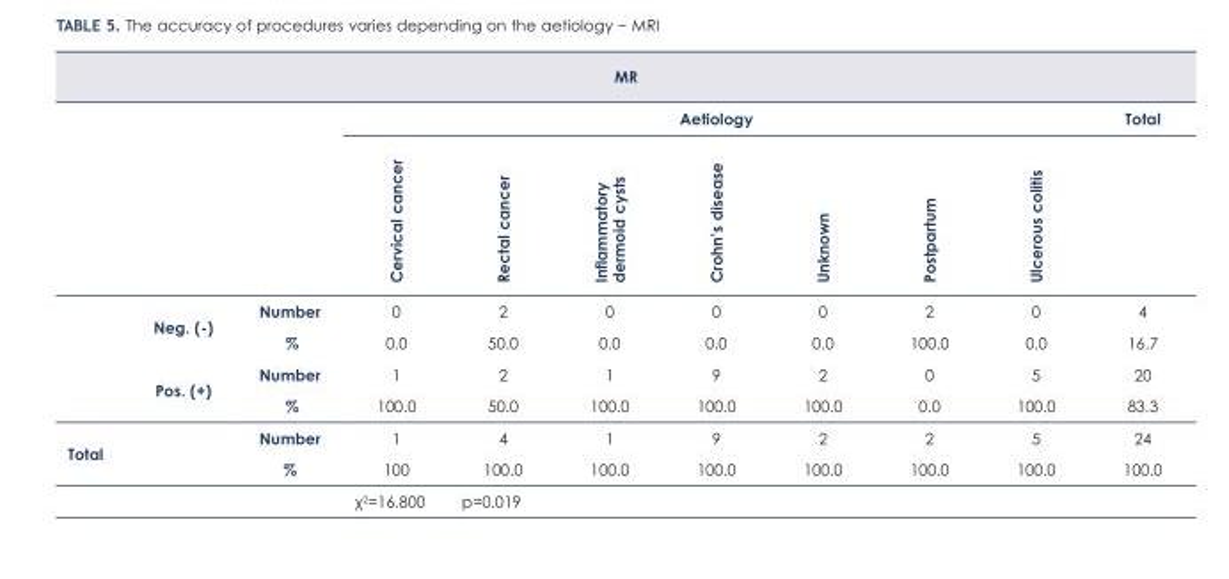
<table><thead><tr><td colspan="11">MR</td></tr><tr><td rowspan="2"></td><td rowspan="2"></td><td rowspan="2"></td><td colspan="7">Aetiology</td><td rowspan="2">Total</td></tr><tr><td>Cervical cancer</td><td>Rectal cancer</td><td>Inflammatory dermoid cysts</td><td>Crohn’s disease</td><td>Unknown</td><td>Postpartum</td><td>Ulcerous colitis</td></tr></thead><tbody><tr><td rowspan="2"></td><td rowspan="2">Neg. (-)</td><td>Number</td><td>0</td><td>2</td><td>0</td><td>0</td><td>0</td><td>2</td><td>0</td><td>4</td></tr><tr><td>%</td><td>0.0</td><td>50.0</td><td>0.0</td><td>0.0</td><td>0.0</td><td>100.0</td><td>0.0</td><td>16.7</td></tr><tr><td rowspan="2"></td><td rowspan="2">Pos. (+)</td><td>Number</td><td>1</td><td>2</td><td>1</td><td>9</td><td>2</td><td>0</td><td>5</td><td>20</td></tr><tr><td>%</td><td>100.0</td><td>50.0</td><td>100.0</td><td>100.0</td><td>100.0</td><td>0.0</td><td>100.0</td><td>83.3</td></tr><tr><td rowspan="3">Total</td><td rowspan="2"></td><td>Number</td><td>1</td><td>4</td><td>1</td><td>9</td><td>2</td><td>2</td><td>5</td><td>24</td></tr><tr><td>%</td><td>100</td><td>100.0</td><td>100.0</td><td>100.0</td><td>100.0</td><td>100.0</td><td>100.0</td><td>100.0</td></tr><tr><td></td><td></td><td>χ<sup>2</sup>=16.800</td><td>p=0.019</td><td></td><td></td><td></td><td></td><td></td><td></td></tr></tbody></table>